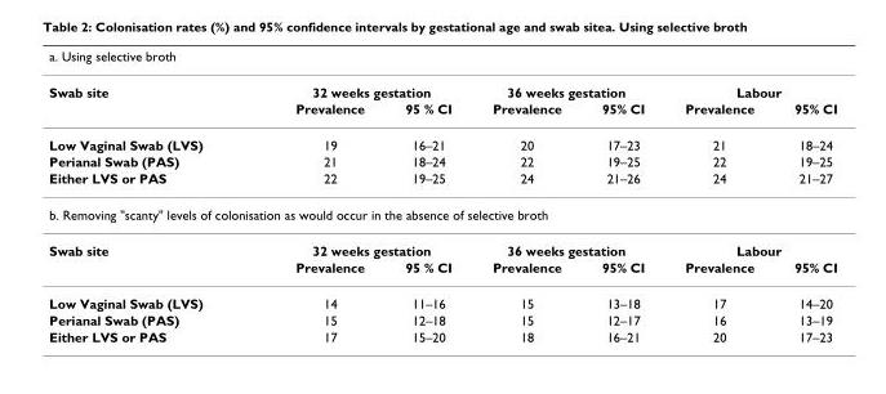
<table><thead><tr><td colspan="7">a. Using selective broth</td></tr><tr><td rowspan="2">Swab site</td><td colspan="2">32 weeks gestation</td><td colspan="2">36 weeks gestation</td><td colspan="2">Labour</td></tr><tr><td>Prevalence</td><td>95 % CI</td><td>Prevalence</td><td>95% CI</td><td>Prevalence</td><td>95% CI</td></tr></thead><tbody><tr><td>Low Vaginal Swab (LVS)</td><td>19</td><td>16–21</td><td>20</td><td>17–23</td><td>21</td><td>18–24</td></tr><tr><td>Perianal Swab (PAS)</td><td>21</td><td>18–24</td><td>22</td><td>19–25</td><td>22</td><td>19–25</td></tr><tr><td>Either LVS or PAS</td><td>22</td><td>19–25</td><td>24</td><td>21–26</td><td>24</td><td>21–27</td></tr><tr><td colspan="7">b. Removing &quot;scanty&quot; levels of colonisation as would occur in the absence of selective broth</td></tr><tr><td rowspan="2">Swab site</td><td colspan="2">32 weeks gestation</td><td colspan="2">36 weeks gestation</td><td colspan="2">Labour</td></tr><tr><td>Prevalence</td><td>95 % CI</td><td>Prevalence</td><td>95% CI</td><td>Prevalence</td><td>95% CI</td></tr><tr><td>Low Vaginal Swab (LVS)</td><td>14</td><td>11–16</td><td>15</td><td>13–18</td><td>17</td><td>14–20</td></tr><tr><td>Perianal Swab (PAS)</td><td>15</td><td>12–18</td><td>15</td><td>12–17</td><td>16</td><td>13–19</td></tr><tr><td>Either LVS or PAS</td><td>17</td><td>15–20</td><td>18</td><td>16–21</td><td>20</td><td>17–23</td></tr></tbody></table>